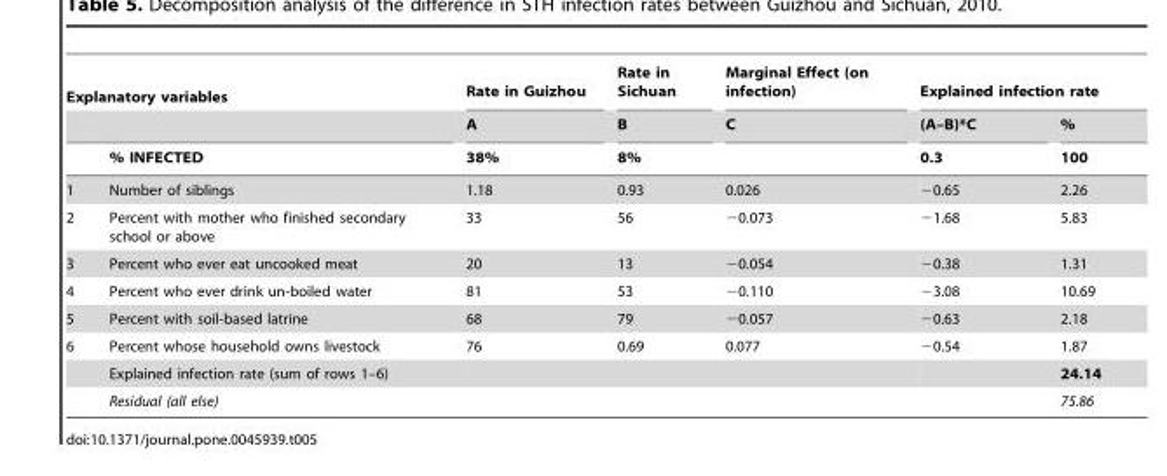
<table><thead><tr><td colspan="2">Explanatory variables</td><td rowspan="3">Rate in Guizhou A 38%</td><td rowspan="3">Rate in Sichuan B 8%</td><td rowspan="3">Marginal Effect (on infection) C</td><td colspan="2">Explained infection rate</td></tr><tr><td rowspan="2"></td><td rowspan="2">% INFECTED</td><td rowspan="2">(A–B)*C 0.3</td><td rowspan="2">% 100</td></tr><tr></tr></thead><tbody><tr><td>1</td><td>Number of siblings</td><td>1.18</td><td>0.93</td><td>0.026</td><td>−0.65</td><td>2.26</td></tr><tr><td>2</td><td>Percent with mother who finished secondary school or above</td><td>33</td><td>56</td><td>−0.073</td><td>−1.68</td><td>5.83</td></tr><tr><td>3</td><td>Percent who ever eat uncooked meat</td><td>20</td><td>13</td><td>−0.054</td><td>−0.38</td><td>1.31</td></tr><tr><td>4</td><td>Percent who ever drink un-boiled water</td><td>81</td><td>53</td><td>−0.110</td><td>−3.08</td><td>10.69</td></tr><tr><td>5</td><td>Percent with soil-based latrine</td><td>68</td><td>79</td><td>−0.057</td><td>−0.63</td><td>2.18</td></tr><tr><td rowspan="3">6</td><td>Percent whose household owns livestock</td><td>76</td><td>0.69</td><td>0.077</td><td>−0.54</td><td>1.87</td></tr><tr><td>Explained infection rate (sum of rows 1–6)</td><td></td><td></td><td></td><td></td><td>24.14</td></tr><tr><td>Residual (all else)</td><td></td><td></td><td></td><td></td><td>75.86</td></tr></tbody></table>